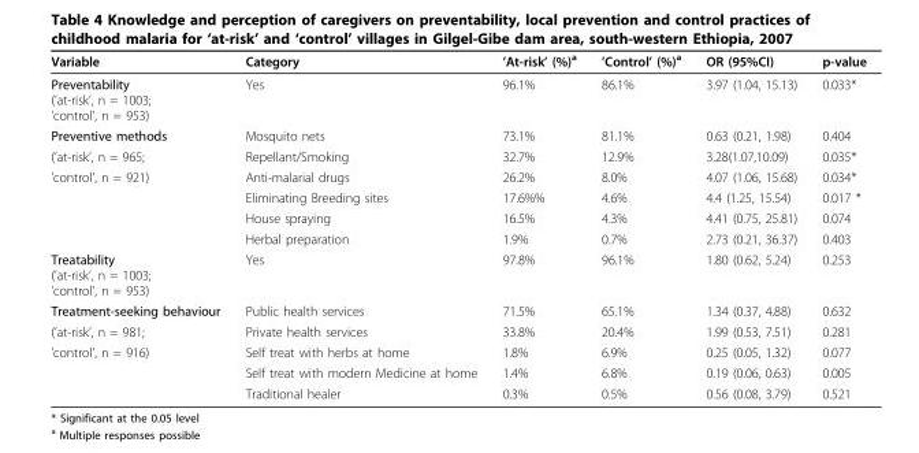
<table><thead><tr><td>Variable</td><td>Category</td><td>’At-risk’ (%)<sup>a</sup></td><td>’Control’ (%)<sup>a</sup></td><td>OR (95%CI)</td><td>p-value</td></tr></thead><tbody><tr><td>Preventability (’at-risk’, n = 1003; ’control’, n = 953)</td><td>Yes</td><td>96.1%</td><td>86.1%</td><td>3.97 (1.04, 15.13)</td><td>0.033*</td></tr><tr><td>Preventive methods</td><td>Mosquito nets</td><td>73.1%</td><td>81.1%</td><td>0.63 (0.21, 1.98)</td><td>0.404</td></tr><tr><td>(’at-risk’, n = 965;</td><td>Repellant/Smoking</td><td>32.7%</td><td>12.9%</td><td>3.28(1.07,10.09)</td><td>0.035*</td></tr><tr><td rowspan="4">’control’, n = 921)</td><td>Anti-malarial drugs</td><td>26.2%</td><td>8.0%</td><td>4.07 (1.06, 15.68)</td><td>0.034*</td></tr><tr><td>Eliminating Breeding sites</td><td>17.6%%</td><td>4.6%</td><td>4.4 (1.25, 15.54)</td><td>0.017 *</td></tr><tr><td>House spraying</td><td>16.5%</td><td>4.3%</td><td>4.41 (0.75, 25.81)</td><td>0.074</td></tr><tr><td>Herbal preparation</td><td>1.9%</td><td>0.7%</td><td>2.73 (0.21, 36.37)</td><td>0.403</td></tr><tr><td>Treatability (’at-risk’, n = 1003; ’control’, n = 953)</td><td>Yes</td><td>97.8%</td><td>96.1%</td><td>1.80 (0.62, 5.24)</td><td>0.253</td></tr><tr><td>Treatment-seeking behaviour</td><td>Public health services</td><td>71.5%</td><td>65.1%</td><td>1.34 (0.37, 4.88)</td><td>0.632</td></tr><tr><td>(’at-risk’, n = 981;</td><td>Private health services</td><td>33.8%</td><td>20.4%</td><td>1.99 (0.53, 7.51)</td><td>0.281</td></tr><tr><td rowspan="3">’control’, n = 916)</td><td>Self treat with herbs at home</td><td>1.8%</td><td>6.9%</td><td>0.25 (0.05, 1.32)</td><td>0.077</td></tr><tr><td>Self treat with modern Medicine at home</td><td>1.4%</td><td>6.8%</td><td>0.19 (0.06, 0.63)</td><td>0.005</td></tr><tr><td>Traditional healer</td><td>0.3%</td><td>0.5%</td><td>0.56 (0.08, 3.79)</td><td>0.521</td></tr></tbody></table>